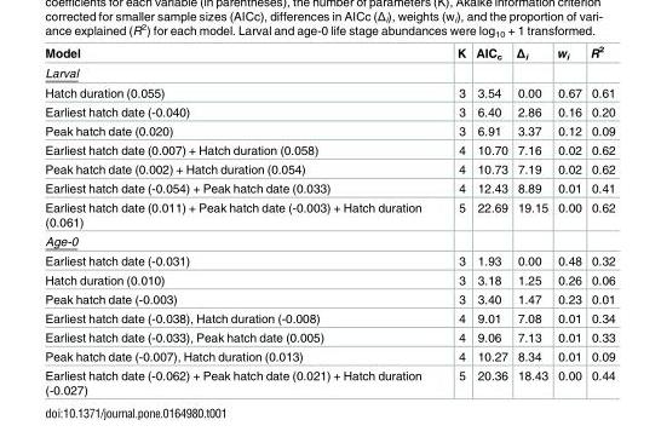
<table><thead><tr><td>Model</td><td>K</td><td>AIC<sub>c</sub></td><td>Δ<sub>i</sub></td><td>w<sub>i</sub></td><td>R<sup>2</sup></td></tr></thead><tbody><tr><td colspan="6">Larval</td></tr><tr><td>Hatch duration (0.055)</td><td>3</td><td>3.54</td><td>0.00</td><td>0.67</td><td>0.61</td></tr><tr><td>Earliest hatch date (-0.040)</td><td>3</td><td>6.40</td><td>2.86</td><td>0.16</td><td>0.20</td></tr><tr><td>Peak hatch date (0.020)</td><td>3</td><td>6.91</td><td>3.37</td><td>0.12</td><td>0.09</td></tr><tr><td>Earliest hatch date (0.007) + Hatch duration (0.058)</td><td>4</td><td>10.70</td><td>7.16</td><td>0.02</td><td>0.62</td></tr><tr><td>Peak hatch date (0.002) + Hatch duration (0.054)</td><td>4</td><td>10.73</td><td>7.19</td><td>0.02</td><td>0.62</td></tr><tr><td>Earliest hatch date (-0.054) + Peak hatch date (0.033)</td><td>4</td><td>12.43</td><td>8.89</td><td>0.01</td><td>0.41</td></tr><tr><td>Earliest hatch date (0.011) + Peak hatch date (-0.003) + Hatch duration (0.061)</td><td>5</td><td>22.69</td><td>19.15</td><td>0.00</td><td>0.62</td></tr><tr><td colspan="6">Age-0</td></tr><tr><td>Earliest hatch date (-0.031)</td><td>3</td><td>1.93</td><td>0.00</td><td>0.48</td><td>0.32</td></tr><tr><td>Hatch duration (0.010)</td><td>3</td><td>3.18</td><td>1.25</td><td>0.26</td><td>0.06</td></tr><tr><td>Peak hatch date (-0.003)</td><td>3</td><td>3.40</td><td>1.47</td><td>0.23</td><td>0.01</td></tr><tr><td>Earliest hatch date (-0.038), Hatch duration (-0.008)</td><td>4</td><td>9.01</td><td>7.08</td><td>0.01</td><td>0.34</td></tr><tr><td>Earliest hatch date (-0.033), Peak hatch date (0.005)</td><td>4</td><td>9.06</td><td>7.13</td><td>0.01</td><td>0.33</td></tr><tr><td>Peak hatch date (-0.007), Hatch duration (0.013)</td><td>4</td><td>10.27</td><td>8.34</td><td>0.01</td><td>0.09</td></tr><tr><td>Earliest hatch date (-0.062) + Peak hatch date (0.021) + Hatch duration (-0.027)</td><td>5</td><td>20.36</td><td>18.43</td><td>0.00</td><td>0.44</td></tr></tbody></table>